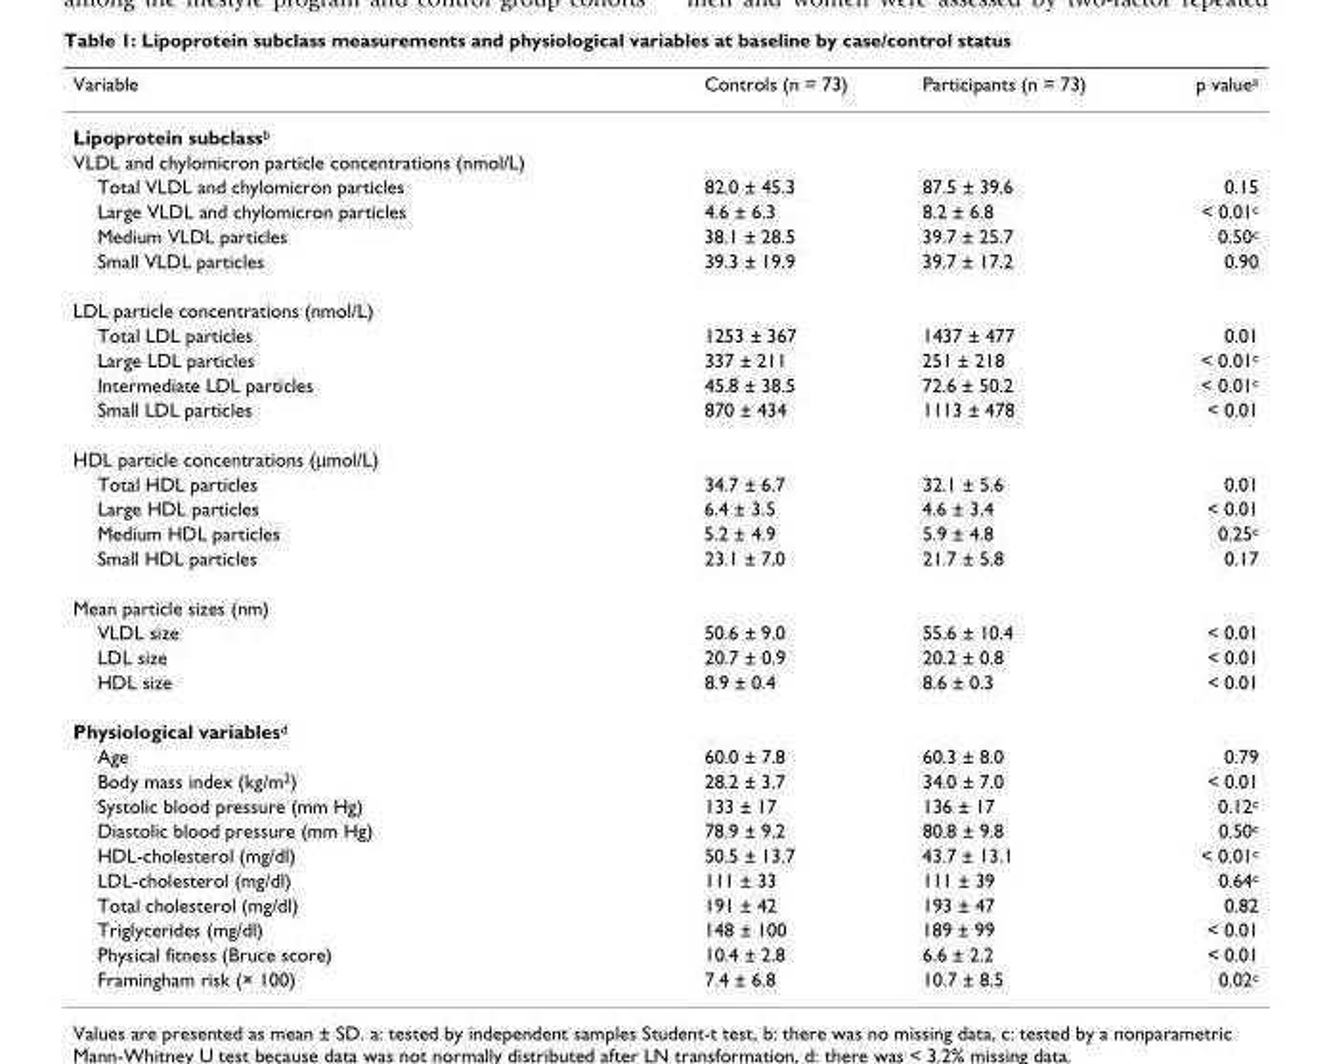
<table><thead><tr><td>Variable</td><td>Controls (n = 73)</td><td>Participants (n = 73)</td><td>p value<sup>a</sup></td></tr></thead><tbody><tr><td colspan="4">Lipoprotein subclass<sup>b</sup></td></tr><tr><td colspan="4">VLDL and chylomicron particle concentrations (nmol/L)</td></tr><tr><td>Total VLDL and chylomicron particles</td><td>82.0 ± 45.3</td><td>87.5 ± 39.6</td><td>0.15</td></tr><tr><td>Large VLDL and chylomicron particles</td><td>4.6 ± 6.3</td><td>8.2 ± 6.8</td><td>&lt; 0.01<sup>c</sup></td></tr><tr><td>Medium VLDL particles</td><td>38.1 ± 28.5</td><td>39.7 ± 25.7</td><td>0.50<sup>c</sup></td></tr><tr><td>Small VLDL particles</td><td>39.3 ± 19.9</td><td>39.7 ± 17.2</td><td>0.90</td></tr><tr><td colspan="4">LDL particle concentrations (nmol/L)</td></tr><tr><td>Total LDL particles</td><td>1253 ± 367</td><td>1437 ± 477</td><td>0.01</td></tr><tr><td>Large LDL particles</td><td>337 ± 211</td><td>251 ± 218</td><td>&lt; 0.01<sup>c</sup></td></tr><tr><td>Intermediate LDL particles</td><td>45.8 ± 38.5</td><td>72.6 ± 50.2</td><td>&lt; 0.01<sup>c</sup></td></tr><tr><td>Small LDL particles</td><td>870 ± 434</td><td>1113 ± 478</td><td>&lt; 0.01</td></tr><tr><td colspan="4">HDL particle concentrations (μmol/L)</td></tr><tr><td>Total HDL particles</td><td>34.7 ± 6.7</td><td>32.1 ± 5.6</td><td>0.01</td></tr><tr><td>Large HDL particles</td><td>6.4 ± 3.5</td><td>4.6 ± 3.4</td><td>&lt; 0.01</td></tr><tr><td>Medium HDL particles</td><td>5.2 ± 4.9</td><td>5.9 ± 4.8</td><td>0.25<sup>c</sup></td></tr><tr><td>Small HDL particles</td><td>23.1 ± 7.0</td><td>21.7 ± 5.8</td><td>0.17</td></tr><tr><td colspan="4">Mean particle sizes (nm)</td></tr><tr><td>VLDL size</td><td>50.6 ± 9.0</td><td>55.6 ± 10.4</td><td>&lt; 0.01</td></tr><tr><td>LDL size</td><td>20.7 ± 0.9</td><td>20.2 ± 0.8</td><td>&lt; 0.01</td></tr><tr><td>HDL size</td><td>8.9 ± 0.4</td><td>8.6 ± 0.3</td><td>&lt; 0.01</td></tr><tr><td colspan="4">Physiological variables<sup>d</sup></td></tr><tr><td>Age</td><td>60.0 ± 7.8</td><td>60.3 ± 8.0</td><td>0.79</td></tr><tr><td>Body mass index (kg/m<sup>2</sup>)</td><td>28.2 ± 3.7</td><td>34.0 ± 7.0</td><td>&lt; 0.01</td></tr><tr><td>Systolic blood pressure (mm Hg)</td><td>133 ± 17</td><td>136 ± 17</td><td>0.12<sup>c</sup></td></tr><tr><td>Diastolic blood pressure (mm Hg)</td><td>78.9 ± 9.2</td><td>80.8 ± 9.8</td><td>0.50<sup>c</sup></td></tr><tr><td>HDL-cholesterol (mg/dl)</td><td>50.5 ± 13.7</td><td>43.7 ± 13.1</td><td>&lt; 0.01<sup>c</sup></td></tr><tr><td>LDL-cholesterol (mg/dl)</td><td>111 ± 33</td><td>111 ± 39</td><td>0.64<sup>c</sup></td></tr><tr><td>Total cholesterol (mg/dl)</td><td>191 ± 42</td><td>193 ± 47</td><td>0.82</td></tr><tr><td>Triglycerides (mg/dl)</td><td>148 ± 100</td><td>189 ± 99</td><td>&lt; 0.01</td></tr><tr><td>Physical fitness (Bruce score)</td><td>10.4 ± 2.8</td><td>6.6 ± 2.2</td><td>&lt; 0.01</td></tr><tr><td>Framingham risk (× 100)</td><td>7.4 ± 6.8</td><td>10.7 ± 8.5</td><td>0.02<sup>c</sup></td></tr></tbody></table>